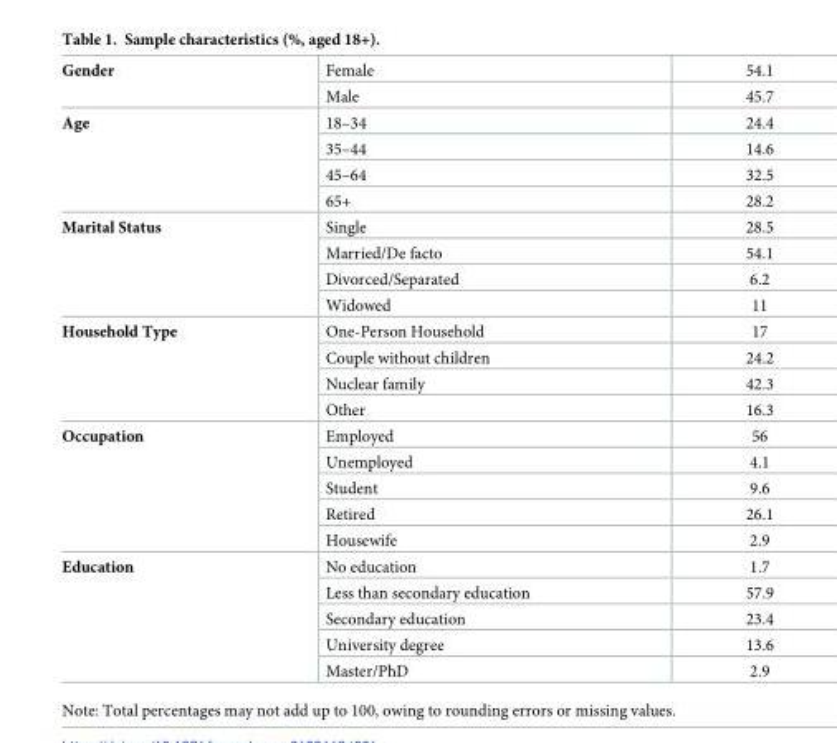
<table><tbody><tr><td rowspan="2">Gender</td><td>Female</td><td>54.1</td></tr><tr><td>Male</td><td>45.7</td></tr><tr><td rowspan="4">Age</td><td>18–34</td><td>24.4</td></tr><tr><td>35–44</td><td>14.6</td></tr><tr><td>45–64</td><td>32.5</td></tr><tr><td>65+</td><td>28.2</td></tr><tr><td rowspan="4">Marital Status</td><td>Single</td><td>28.5</td></tr><tr><td>Married/De facto</td><td>54.1</td></tr><tr><td>Divorced/Separated</td><td>6.2</td></tr><tr><td>Widowed</td><td>11</td></tr><tr><td rowspan="4">Household Type</td><td>One-Person Household</td><td>17</td></tr><tr><td>Couple without children</td><td>24.2</td></tr><tr><td>Nuclear family</td><td>42.3</td></tr><tr><td>Other</td><td>16.3</td></tr><tr><td rowspan="5">Occupation</td><td>Employed</td><td>56</td></tr><tr><td>Unemployed</td><td>4.1</td></tr><tr><td>Student</td><td>9.6</td></tr><tr><td>Retired</td><td>26.1</td></tr><tr><td>Housewife</td><td>2.9</td></tr><tr><td rowspan="5">Education</td><td>No education</td><td>1.7</td></tr><tr><td>Less than secondary education</td><td>57.9</td></tr><tr><td>Secondary education</td><td>23.4</td></tr><tr><td>University degree</td><td>13.6</td></tr><tr><td>Master/PhD</td><td>2.9</td></tr></tbody></table>